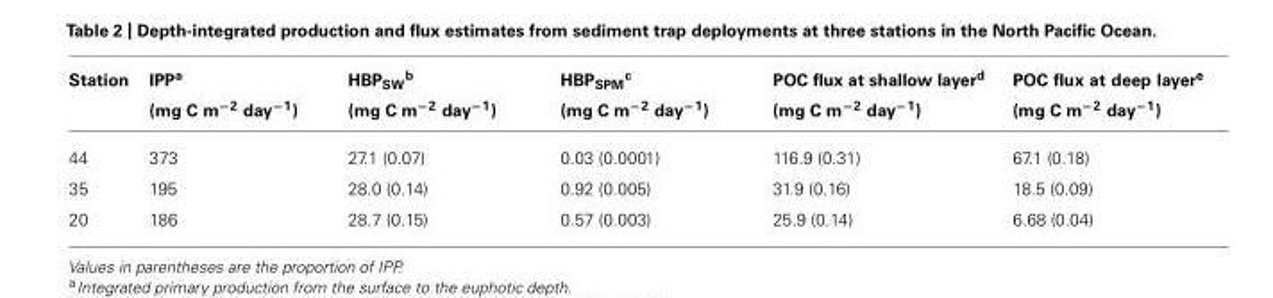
<table><thead><tr><td>Station</td><td>IPP<sup>a</sup> (mg C m<sup>−2</sup> day<sup>−1</sup>)</td><td>HBP<sub>SW</sub><sup>b</sup> (mg C m<sup>−2</sup> day<sup>−1</sup>)</td><td>HBP<sub>SPM</sub><sup>c</sup> (mg C m<sup>−2</sup> day<sup>−1</sup>)</td><td>POC flux at shallow layer<sup>d</sup> (mg C m<sup>−2</sup> day<sup>−1</sup>)</td><td>POC flux at deep layer<sup>e</sup> (mg C m<sup>−2</sup> day<sup>−1</sup>)</td></tr></thead><tbody><tr><td>44</td><td>373</td><td>27.1 (0.07)</td><td>0.03 (0.0001)</td><td>116.9 (0.31)</td><td>67.1 (0.18)</td></tr><tr><td>35</td><td>195</td><td>28.0 (0.14)</td><td>0.92 (0.005)</td><td>31.9 (0.16)</td><td>18.5 (0.09)</td></tr><tr><td>20</td><td>186</td><td>28.7 (0.15)</td><td>0.57 (0.003)</td><td>25.9 (0.14)</td><td>6.68 (0.04)</td></tr></tbody></table>